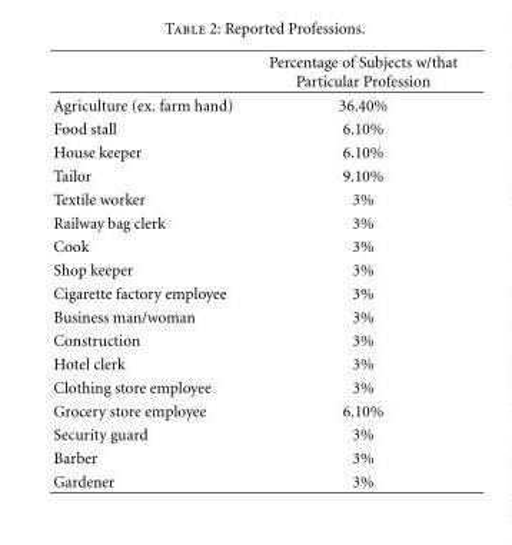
<table><thead><tr><td></td><td>Percentage of Subjects w/that Particular Profession</td></tr></thead><tbody><tr><td>Agriculture (ex. farm hand)</td><td>36.40%</td></tr><tr><td>Food stall</td><td>6.10%</td></tr><tr><td>House keeper</td><td>6.10%</td></tr><tr><td>Tailor</td><td>9.10%</td></tr><tr><td>Textile worker</td><td>3%</td></tr><tr><td>Railway bag clerk</td><td>3%</td></tr><tr><td>Cook</td><td>3%</td></tr><tr><td>Shop keeper</td><td>3%</td></tr><tr><td>Cigarette factory employee</td><td>3%</td></tr><tr><td>Business man/woman</td><td>3%</td></tr><tr><td>Construction</td><td>3%</td></tr><tr><td>Hotel clerk</td><td>3%</td></tr><tr><td>Clothing store employee</td><td>3%</td></tr><tr><td>Grocery store employee</td><td>6.10%</td></tr><tr><td>Security guard</td><td>3%</td></tr><tr><td>Barber</td><td>3%</td></tr><tr><td>Gardener</td><td>3%</td></tr></tbody></table>